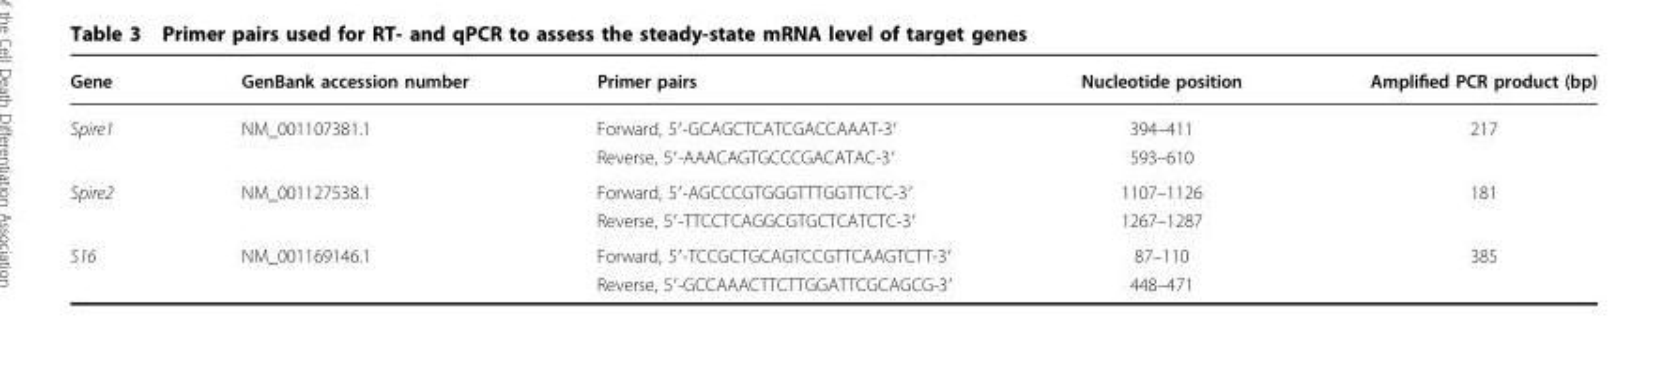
<table><thead><tr><td>Gene</td><td>GenBank accession number</td><td>Primer pairs</td><td>Nucleotide position</td><td>Amplified PCR product (bp)</td></tr></thead><tbody><tr><td>Spire1</td><td>NM_001107381.1</td><td>Forward, 5′-GCAGCTCATCGACCAAAT-3′ Reverse, 5′-AAACAGTGCCCGACATAC-3′</td><td>394–411 593–610</td><td>217</td></tr><tr><td>Spire2</td><td>NM_001127538.1</td><td>Forward, 5′-AGCCCGTGGGTTTGGTTCTC-3′ Reverse, 5′-TTCCTCAGGCGTGCTCATCTC-3′</td><td>1107–1126 1267–1287</td><td>181</td></tr><tr><td>S16</td><td>NM_001169146.1</td><td>Forward, 5′-TCCGCTGCAGTCCGTTCAAGTCTT-3′ Reverse, 5′-GCCAAACTTCTTGGATTCGCAGCG-3′</td><td>87–110 448–471</td><td>385</td></tr></tbody></table>